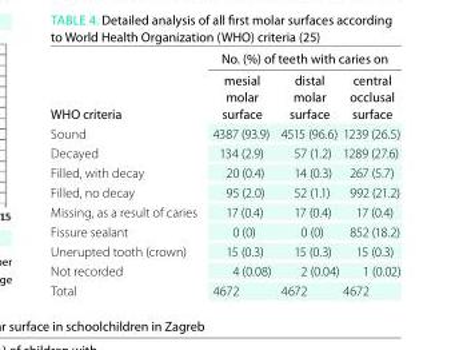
<table><thead><tr><td rowspan="2">WhO criteria</td><td colspan="3">No. (%) of teeth with caries on</td></tr><tr><td>mesial molar surface</td><td>distal molar surface</td><td>central occlusal surface</td></tr></thead><tbody><tr><td>Sound</td><td>4387 (93.9)</td><td>4515 (96.6)</td><td>1239 (26.5)</td></tr><tr><td>Decayed</td><td>134 (2.9)</td><td>57 (1.2)</td><td>1289 (27.6)</td></tr><tr><td>Filled, with decay</td><td>20 (0.4)</td><td>14 (0.3)</td><td>267 (5.7)</td></tr><tr><td>Filled, no decay</td><td>95 (2.0)</td><td>52 (1.1)</td><td>992 (21.2)</td></tr><tr><td>Missing, as a result of caries</td><td>17 (0.4)</td><td>17 (0.4)</td><td>17 (0.4)</td></tr><tr><td>Fissure sealant</td><td>0 (0)</td><td>0 (0)</td><td>852 (18.2)</td></tr><tr><td>Unerupted tooth (crown)</td><td>15 (0.3)</td><td>15 (0.3)</td><td>15 (0.3)</td></tr><tr><td>Not recorded</td><td>4 (0.08)</td><td>2 (0.04)</td><td>1 (0.02)</td></tr><tr><td>Total</td><td>4672</td><td>4672</td><td>4672</td></tr></tbody></table>